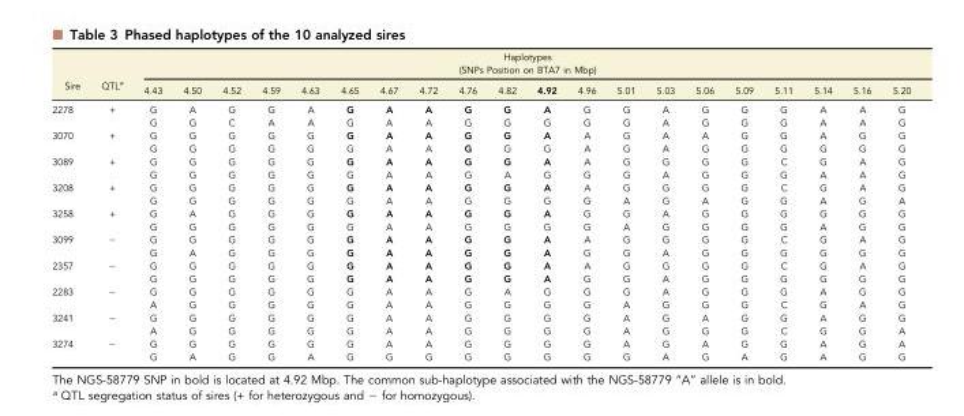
<table><thead><tr><td rowspan="2">Sire</td><td rowspan="2">QTLa</td><td colspan="20">Haplotypes (SNPs Position on BTA7 in Mbp)</td></tr><tr><td>4.43</td><td>4.50</td><td>4.52</td><td>4.59</td><td>4.63</td><td>4.65</td><td>4.67</td><td>4.72</td><td>4.76</td><td>4.82</td><td>4.92</td><td>4.96</td><td>5.01</td><td>5.03</td><td>5.06</td><td>5.09</td><td>5.11</td><td>5.14</td><td>5.16</td><td>5.20</td></tr></thead><tbody><tr><td rowspan="2">2278</td><td rowspan="2">+</td><td>G</td><td>A</td><td>G</td><td>G</td><td>A</td><td>G</td><td>A</td><td>A</td><td>G</td><td>G</td><td>A</td><td>G</td><td>G</td><td>A</td><td>G</td><td>G</td><td>G</td><td>A</td><td>A</td><td>G</td></tr><tr><td>G</td><td>G</td><td>C</td><td>A</td><td>A</td><td>G</td><td>A</td><td>A</td><td>G</td><td>G</td><td>G</td><td>G</td><td>G</td><td>A</td><td>G</td><td>G</td><td>G</td><td>A</td><td>A</td><td>G</td></tr><tr><td rowspan="2">3070</td><td rowspan="2">+</td><td>G</td><td>G</td><td>G</td><td>G</td><td>G</td><td>G</td><td>A</td><td>A</td><td>G</td><td>G</td><td>A</td><td>A</td><td>G</td><td>A</td><td>A</td><td>G</td><td>G</td><td>A</td><td>G</td><td>G</td></tr><tr><td>G</td><td>G</td><td>G</td><td>G</td><td>G</td><td>G</td><td>A</td><td>A</td><td>G</td><td>G</td><td>G</td><td>A</td><td>G</td><td>A</td><td>G</td><td>G</td><td>G</td><td>G</td><td>G</td><td>G</td></tr><tr><td rowspan="2">3089</td><td rowspan="2">+</td><td>G</td><td>G</td><td>G</td><td>G</td><td>G</td><td>G</td><td>A</td><td>A</td><td>G</td><td>G</td><td>A</td><td>A</td><td>G</td><td>G</td><td>G</td><td>G</td><td>C</td><td>G</td><td>A</td><td>G</td></tr><tr><td>G</td><td>G</td><td>G</td><td>G</td><td>G</td><td>G</td><td>A</td><td>A</td><td>G</td><td>A</td><td>G</td><td>G</td><td>G</td><td>A</td><td>G</td><td>G</td><td>G</td><td>A</td><td>A</td><td>G</td></tr><tr><td rowspan="2">3208</td><td rowspan="2">+</td><td>G</td><td>G</td><td>G</td><td>G</td><td>G</td><td>G</td><td>A</td><td>A</td><td>G</td><td>G</td><td>A</td><td>A</td><td>G</td><td>G</td><td>G</td><td>G</td><td>C</td><td>G</td><td>A</td><td>G</td></tr><tr><td>G</td><td>G</td><td>G</td><td>G</td><td>G</td><td>G</td><td>A</td><td>A</td><td>G</td><td>G</td><td>G</td><td>G</td><td>A</td><td>G</td><td>A</td><td>G</td><td>G</td><td>A</td><td>G</td><td>A</td></tr><tr><td rowspan="2">3258</td><td rowspan="2">+</td><td>G</td><td>A</td><td>G</td><td>G</td><td>G</td><td>G</td><td>A</td><td>A</td><td>G</td><td>G</td><td>A</td><td>G</td><td>G</td><td>A</td><td>G</td><td>G</td><td>G</td><td>G</td><td>G</td><td>G</td></tr><tr><td>G</td><td>G</td><td>G</td><td>G</td><td>G</td><td>G</td><td>A</td><td>A</td><td>G</td><td>G</td><td>G</td><td>G</td><td>A</td><td>G</td><td>G</td><td>G</td><td>G</td><td>A</td><td>G</td><td>G</td></tr><tr><td rowspan="2">3099</td><td rowspan="2">−</td><td>G</td><td>G</td><td>G</td><td>G</td><td>G</td><td>G</td><td>A</td><td>A</td><td>G</td><td>G</td><td>A</td><td>A</td><td>G</td><td>G</td><td>G</td><td>G</td><td>C</td><td>G</td><td>A</td><td>G</td></tr><tr><td>G</td><td>A</td><td>G</td><td>G</td><td>G</td><td>G</td><td>A</td><td>A</td><td>G</td><td>G</td><td>A</td><td>G</td><td>G</td><td>A</td><td>G</td><td>G</td><td>G</td><td>G</td><td>G</td><td>G</td></tr><tr><td rowspan="2">2357</td><td rowspan="2">−</td><td>G</td><td>G</td><td>G</td><td>G</td><td>G</td><td>G</td><td>A</td><td>A</td><td>G</td><td>G</td><td>A</td><td>A</td><td>G</td><td>G</td><td>G</td><td>G</td><td>C</td><td>G</td><td>A</td><td>G</td></tr><tr><td>G</td><td>G</td><td>G</td><td>G</td><td>G</td><td>G</td><td>A</td><td>A</td><td>G</td><td>G</td><td>A</td><td>G</td><td>G</td><td>A</td><td>G</td><td>G</td><td>G</td><td>G</td><td>G</td><td>G</td></tr><tr><td rowspan="2">2283</td><td rowspan="2">−</td><td>G</td><td>G</td><td>G</td><td>G</td><td>G</td><td>G</td><td>A</td><td>A</td><td>G</td><td>A</td><td>G</td><td>G</td><td>G</td><td>A</td><td>G</td><td>G</td><td>G</td><td>A</td><td>G</td><td>G</td></tr><tr><td>A</td><td>G</td><td>G</td><td>G</td><td>G</td><td>G</td><td>A</td><td>A</td><td>G</td><td>G</td><td>G</td><td>G</td><td>A</td><td>G</td><td>G</td><td>G</td><td>C</td><td>G</td><td>A</td><td>G</td></tr><tr><td rowspan="2">3241</td><td rowspan="2">−</td><td>G</td><td>G</td><td>G</td><td>G</td><td>G</td><td>G</td><td>A</td><td>A</td><td>G</td><td>G</td><td>G</td><td>G</td><td>A</td><td>G</td><td>A</td><td>G</td><td>G</td><td>A</td><td>G</td><td>G</td></tr><tr><td>A</td><td>G</td><td>G</td><td>G</td><td>G</td><td>G</td><td>A</td><td>A</td><td>G</td><td>G</td><td>G</td><td>G</td><td>A</td><td>G</td><td>G</td><td>G</td><td>C</td><td>G</td><td>G</td><td>A</td></tr><tr><td rowspan="2">3274</td><td rowspan="2">−</td><td>G</td><td>G</td><td>G</td><td>G</td><td>G</td><td>G</td><td>A</td><td>A</td><td>G</td><td>G</td><td>G</td><td>G</td><td>A</td><td>G</td><td>A</td><td>G</td><td>G</td><td>A</td><td>G</td><td>A</td></tr><tr><td>G</td><td>A</td><td>G</td><td>G</td><td>A</td><td>G</td><td>G</td><td>G</td><td>G</td><td>G</td><td>G</td><td>G</td><td>G</td><td>A</td><td>G</td><td>A</td><td>G</td><td>A</td><td>G</td><td>G</td></tr></tbody></table>